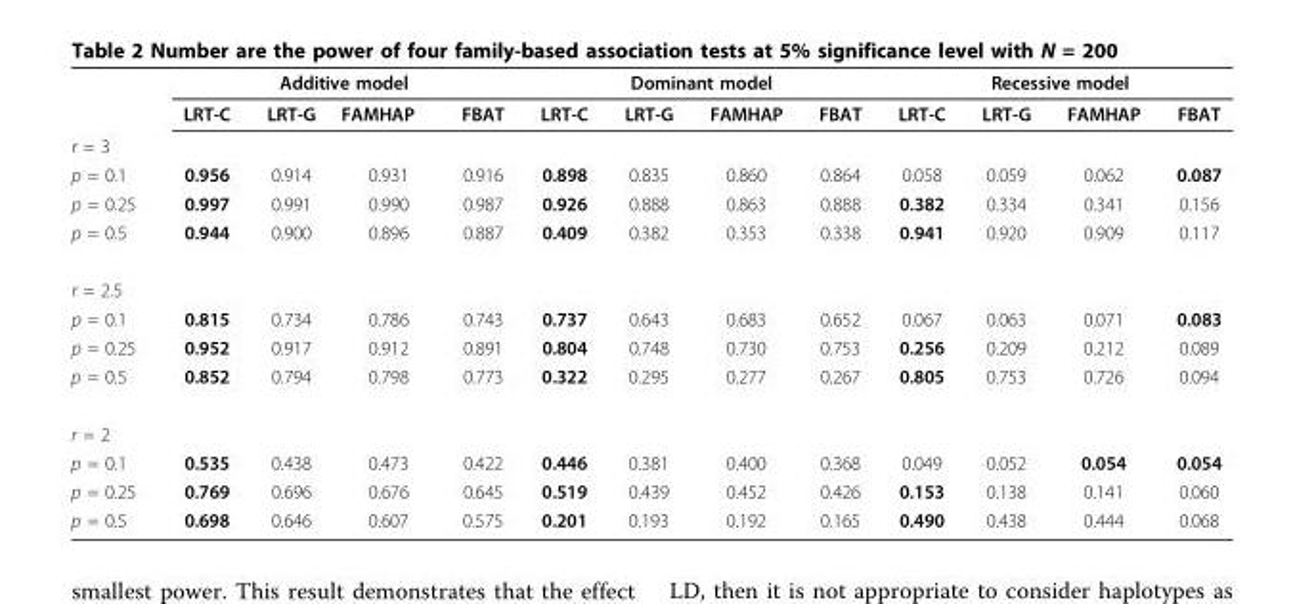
<table><thead><tr><td rowspan="2"></td><td colspan="4">Additive model</td><td colspan="4">Dominant model</td><td colspan="4">Recessive model</td></tr><tr><td>LRT-C</td><td>LRT-G</td><td>FAMHAP</td><td>FBAT</td><td>LRT-C</td><td>LRT-G</td><td>FAMHAP</td><td>FBAT</td><td>LRT-C</td><td>LRT-G</td><td>FAMHAP</td><td>FBAT</td></tr></thead><tbody><tr><td colspan="13">r = 3</td></tr><tr><td>p = 0.1</td><td>0.956</td><td>0.914</td><td>0.931</td><td>0.916</td><td>0.898</td><td>0.835</td><td>0.860</td><td>0.864</td><td>0.058</td><td>0.059</td><td>0.062</td><td>0.087</td></tr><tr><td>p = 0.25</td><td>0.997</td><td>0.991</td><td>0.990</td><td>0.987</td><td>0.926</td><td>0.888</td><td>0.863</td><td>0.888</td><td>0.382</td><td>0.334</td><td>0.341</td><td>0.156</td></tr><tr><td>p = 0.5</td><td>0.944</td><td>0.900</td><td>0.896</td><td>0.887</td><td>0.409</td><td>0.382</td><td>0.353</td><td>0.338</td><td>0.941</td><td>0.920</td><td>0.909</td><td>0.117</td></tr><tr><td colspan="13">r = 2.5</td></tr><tr><td>p = 0.1</td><td>0.815</td><td>0.734</td><td>0.786</td><td>0.743</td><td>0.737</td><td>0.643</td><td>0.683</td><td>0.652</td><td>0.067</td><td>0.063</td><td>0.071</td><td>0.083</td></tr><tr><td>p = 0.25</td><td>0.952</td><td>0.917</td><td>0.912</td><td>0.891</td><td>0.804</td><td>0.748</td><td>0.730</td><td>0.753</td><td>0.256</td><td>0.209</td><td>0.212</td><td>0.089</td></tr><tr><td>p = 0.5</td><td>0.852</td><td>0.794</td><td>0.798</td><td>0.773</td><td>0.322</td><td>0.295</td><td>0.277</td><td>0.267</td><td>0.805</td><td>0.753</td><td>0.726</td><td>0.094</td></tr><tr><td colspan="13">r = 2</td></tr><tr><td>p = 0.1</td><td>0.535</td><td>0.438</td><td>0.473</td><td>0.422</td><td>0.446</td><td>0.381</td><td>0.400</td><td>0.368</td><td>0.049</td><td>0.052</td><td>0.054</td><td>0.054</td></tr><tr><td>p = 0.25</td><td>0.769</td><td>0.696</td><td>0.676</td><td>0.645</td><td>0.519</td><td>0.439</td><td>0.452</td><td>0.426</td><td>0.153</td><td>0.138</td><td>0.141</td><td>0.060</td></tr><tr><td>p = 0.5</td><td>0.698</td><td>0.646</td><td>0.607</td><td>0.575</td><td>0.201</td><td>0.193</td><td>0.192</td><td>0.165</td><td>0.490</td><td>0.438</td><td>0.444</td><td>0.068</td></tr></tbody></table>